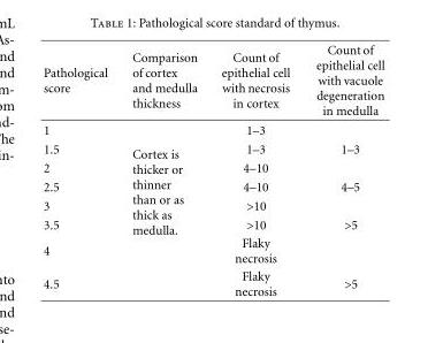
<table><thead><tr><td>Pathological score</td><td>Comparison of cortex and medulla thickness</td><td>Count of epithelial cell with necrosis in cortex</td><td>Count of epithelial cell with vacuole degeneration in medulla</td></tr></thead><tbody><tr><td>1</td><td rowspan="8">Cortex is thicker or thinner than or as thick as medulla.</td><td>1–3</td><td></td></tr><tr><td>1.5</td><td>1–3</td><td>1–3</td></tr><tr><td>2</td><td>4–10</td><td></td></tr><tr><td>2.5</td><td>4–10</td><td>4–5</td></tr><tr><td>3</td><td>&gt;10</td><td></td></tr><tr><td>3.5</td><td>&gt;10</td><td>&gt;5</td></tr><tr><td>4</td><td>Flaky necrosis</td><td></td></tr><tr><td>4.5</td><td>Flaky necrosis</td><td>&gt;5</td></tr></tbody></table>